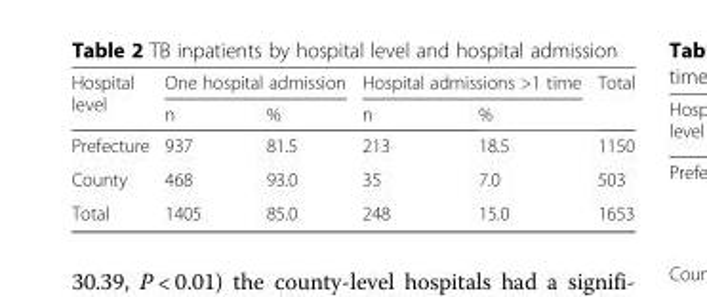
<table><thead><tr><td rowspan="2">Hospital level</td><td colspan="2">One hospital admission</td><td colspan="2">Hospital admissions &gt;1 time</td><td rowspan="2">Total</td></tr><tr><td>n</td><td>%</td><td>n</td><td>%</td></tr></thead><tbody><tr><td>Prefecture</td><td>937</td><td>81.5</td><td>213</td><td>18.5</td><td>1150</td></tr><tr><td>County</td><td>468</td><td>93.0</td><td>35</td><td>7.0</td><td>503</td></tr><tr><td>Total</td><td>1405</td><td>85.0</td><td>248</td><td>15.0</td><td>1653</td></tr></tbody></table>